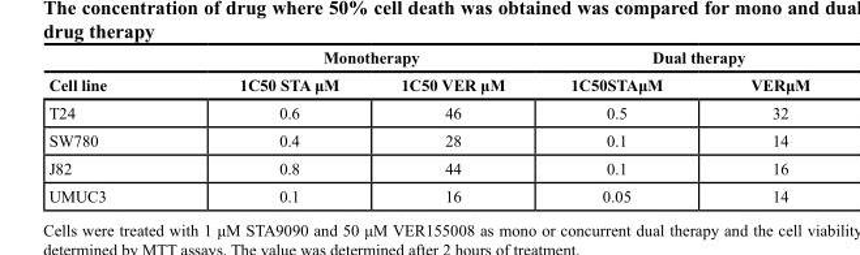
<table><thead><tr><td rowspan="2">Cell line</td><td colspan="2">Monotherapy</td><td colspan="2">Dual therapy</td></tr><tr><td>1C50 STA μM</td><td>1C50 VER μM</td><td>1C50STAμM</td><td>VERμM</td></tr></thead><tbody><tr><td>T24</td><td>0.6</td><td>46</td><td>0.5</td><td>32</td></tr><tr><td>SW780</td><td>0.4</td><td>28</td><td>0.1</td><td>14</td></tr><tr><td>J82</td><td>0.8</td><td>44</td><td>0.1</td><td>16</td></tr><tr><td>UMUC3</td><td>0.1</td><td>16</td><td>0.05</td><td>14</td></tr></tbody></table>